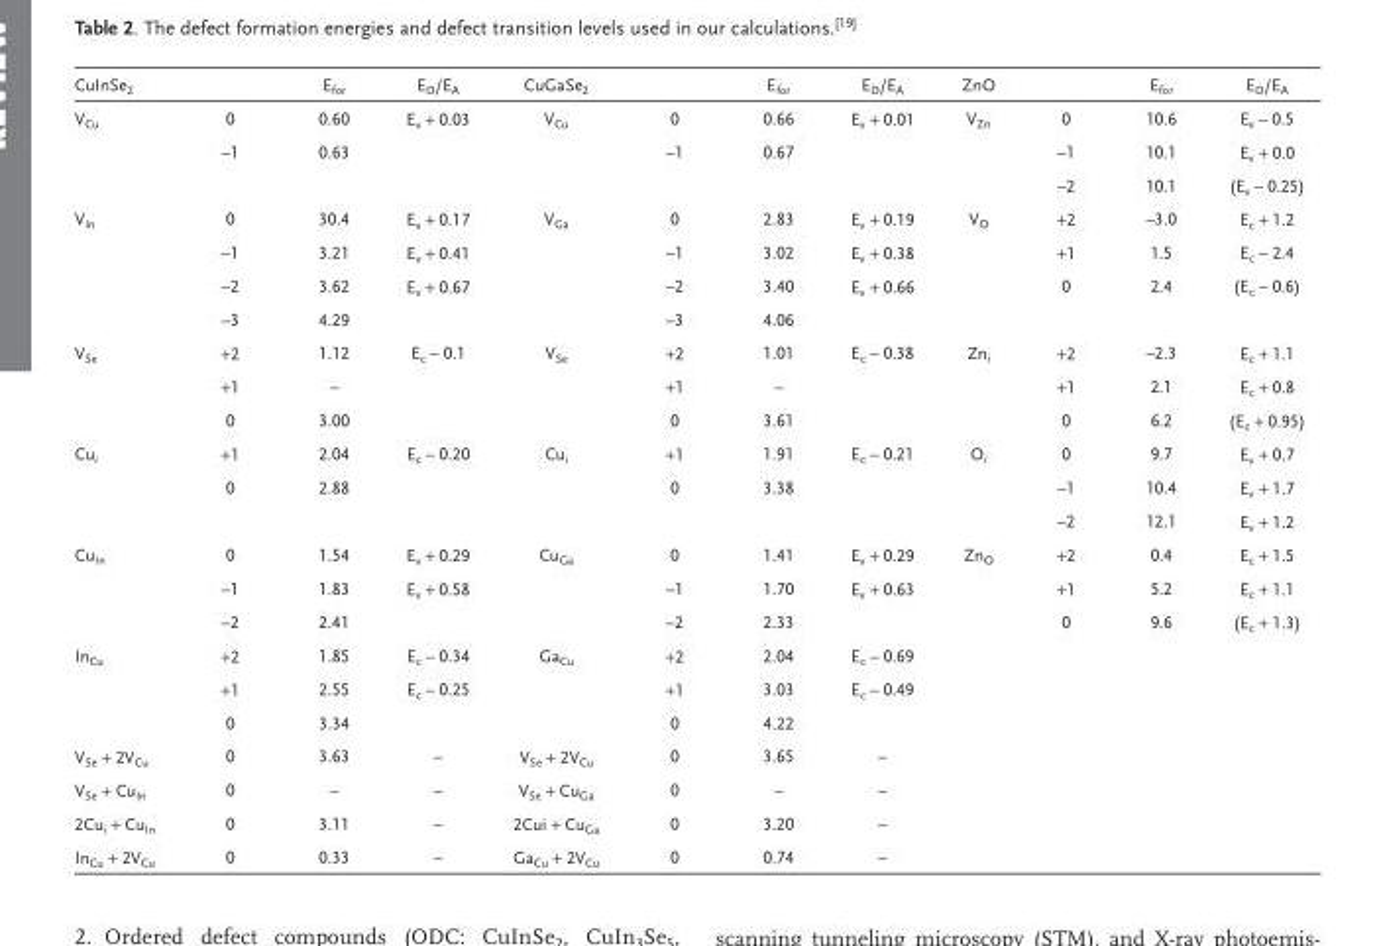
<table><thead><tr><td>CuInSe <sub>2</sub></td><td></td><td>E <sub>for</sub></td><td>E <sub>D</sub> /E <sub>A</sub></td><td>CuGaSe <sub>2</sub></td><td></td><td>E <sub>for</sub></td><td>E <sub>D</sub> /E <sub>A</sub></td><td>ZnO</td><td></td><td>E <sub>for</sub></td><td>E <sub>D</sub> /E <sub>A</sub></td></tr></thead><tbody><tr><td rowspan="3">V <sub>Cu</sub></td><td>0</td><td>0.60</td><td>E <sub>v</sub> + 0.03</td><td>V <sub>Cu</sub></td><td>0</td><td>0.66</td><td>E <sub>v</sub> + 0.01</td><td>V <sub>Zn</sub></td><td>0</td><td>10.6</td><td>E <sub>v</sub> – 0.5</td></tr><tr><td>–1</td><td>0.63</td><td></td><td></td><td>–1</td><td>0.67</td><td></td><td></td><td>–1</td><td>10.1</td><td>E <sub>v</sub> + 0.0</td></tr><tr><td></td><td></td><td></td><td></td><td></td><td></td><td></td><td></td><td>–2</td><td>10.1</td><td>(E <sub>v</sub> – 0.25)</td></tr><tr><td rowspan="4">V <sub>In</sub></td><td>0</td><td>30.4</td><td>E <sub>v</sub> + 0.17</td><td>V <sub>Ga</sub></td><td>0</td><td>2.83</td><td>E <sub>v</sub> + 0.19</td><td>V <sub>O</sub></td><td>+2</td><td>–3.0</td><td>E <sub>c</sub> + 1.2</td></tr><tr><td>–1</td><td>3.21</td><td>E <sub>v</sub> + 0.41</td><td></td><td>–1</td><td>3.02</td><td>E <sub>v</sub> + 0.38</td><td></td><td>+1</td><td>1.5</td><td>E <sub>c</sub> – 2.4</td></tr><tr><td>–2</td><td>3.62</td><td>E <sub>v</sub> + 0.67</td><td></td><td>–2</td><td>3.40</td><td>E <sub>v</sub> + 0.66</td><td></td><td>0</td><td>2.4</td><td>(E <sub>c</sub> – 0.6)</td></tr><tr><td>–3</td><td>4.29</td><td></td><td></td><td>–3</td><td>4.06</td><td></td><td></td><td></td><td></td><td></td></tr><tr><td rowspan="3">V <sub>Se</sub></td><td>+2</td><td>1.12</td><td>E <sub>c</sub> – 0.1</td><td>V <sub>Se</sub></td><td>+2</td><td>1.01</td><td>E <sub>c</sub> – 0.38</td><td>Zn <sub>i</sub></td><td>+2</td><td>–2.3</td><td>E <sub>c</sub> + 1.1</td></tr><tr><td>+1</td><td>–</td><td></td><td></td><td>+1</td><td>–</td><td></td><td></td><td>+1</td><td>2.1</td><td>E <sub>c</sub> + 0.8</td></tr><tr><td>0</td><td>3.00</td><td></td><td></td><td>0</td><td>3.61</td><td></td><td></td><td>0</td><td>6.2</td><td>(E <sub>c</sub> + 0.95)</td></tr><tr><td rowspan="3">Cu <sub>i</sub></td><td>+1</td><td>2.04</td><td>E <sub>c</sub> – 0.20</td><td>Cu <sub>i</sub></td><td>+1</td><td>1.91</td><td>E <sub>c</sub> – 0.21</td><td>O <sub>i</sub></td><td>0</td><td>9.7</td><td>E <sub>v</sub> + 0.7</td></tr><tr><td>0</td><td>2.88</td><td></td><td></td><td>0</td><td>3.38</td><td></td><td></td><td>–1</td><td>10.4</td><td>E <sub>v</sub> + 1.7</td></tr><tr><td></td><td></td><td></td><td></td><td></td><td></td><td></td><td></td><td>–2</td><td>12.1</td><td>E <sub>v</sub> + 1.2</td></tr><tr><td rowspan="3">Cu <sub>In</sub></td><td>0</td><td>1.54</td><td>E <sub>v</sub> + 0.29</td><td>Cu <sub>Ga</sub></td><td>0</td><td>1.41</td><td>E <sub>v</sub> + 0.29</td><td>Zn <sub>O</sub></td><td>+2</td><td>0.4</td><td>E <sub>c</sub> + 1.5</td></tr><tr><td>–1</td><td>1.83</td><td>E <sub>v</sub> + 0.58</td><td></td><td>–1</td><td>1.70</td><td>E <sub>v</sub> + 0.63</td><td></td><td>+1</td><td>5.2</td><td>E <sub>c</sub> + 1.1</td></tr><tr><td>–2</td><td>2.41</td><td></td><td></td><td>–2</td><td>2.33</td><td></td><td></td><td>0</td><td>9.6</td><td>(E <sub>c</sub> + 1.3)</td></tr><tr><td rowspan="3">In <sub>Cu</sub></td><td>+2</td><td>1.85</td><td>E <sub>c</sub> – 0.34</td><td>Ga <sub>Cu</sub></td><td>+2</td><td>2.04</td><td>E <sub>c</sub> – 0.69</td><td></td><td></td><td></td><td></td></tr><tr><td>+1</td><td>2.55</td><td>E <sub>c</sub> – 0.25</td><td></td><td>+1</td><td>3.03</td><td>E <sub>c</sub> – 0.49</td><td></td><td></td><td></td><td></td></tr><tr><td>0</td><td>3.34</td><td></td><td></td><td>0</td><td>4.22</td><td></td><td></td><td></td><td></td><td></td></tr><tr><td>V <sub>Se</sub> + 2V <sub>Cu</sub></td><td>0</td><td>3.63</td><td>–</td><td>V <sub>Se</sub> + 2V <sub>Cu</sub></td><td>0</td><td>3.65</td><td>–</td><td></td><td></td><td></td><td></td></tr><tr><td>V <sub>Se</sub> + Cu <sub>In</sub></td><td>0</td><td>–</td><td>–</td><td>V <sub>Se</sub> + Cu <sub>Ga</sub></td><td>0</td><td>–</td><td>–</td><td></td><td></td><td></td><td></td></tr><tr><td>2Cu <sub>i</sub> + Cu <sub>In</sub></td><td>0</td><td>3.11</td><td>–</td><td>2Cu <sub>i</sub> + Cu <sub>Ga</sub></td><td>0</td><td>3.20</td><td>–</td><td></td><td></td><td></td><td></td></tr><tr><td>In <sub>Cu</sub> + 2V <sub>Cu</sub></td><td>0</td><td>0.33</td><td>–</td><td>Ga <sub>Cu</sub> + 2V <sub>Cu</sub></td><td>0</td><td>0.74</td><td>–</td><td></td><td></td><td></td><td></td></tr></tbody></table>